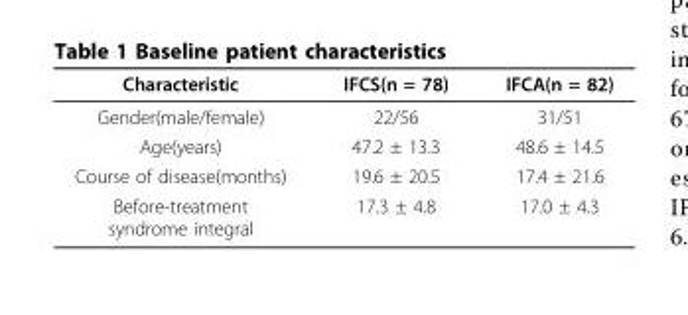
<table><thead><tr><td>Characteristic</td><td>IFCS(n = 78)</td><td>IFCA(n = 82)</td></tr></thead><tbody><tr><td>Gender(male/female)</td><td>22/56</td><td>31/51</td></tr><tr><td>Age(years)</td><td>47.2 ± 13.3</td><td>48.6 ± 14.5</td></tr><tr><td>Course of disease(months)</td><td>19.6 ± 20.5</td><td>17.4 ± 21.6</td></tr><tr><td>Before-treatment syndrome integral</td><td>17.3 ± 4.8</td><td>17.0 ± 4.3</td></tr></tbody></table>